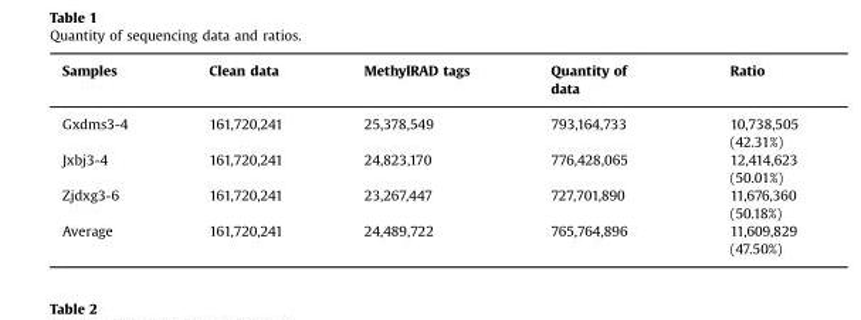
<table><thead><tr><td>Samples</td><td>Clean data</td><td>MethylRAD tags</td><td>Quantity of data</td><td>Ratio</td></tr></thead><tbody><tr><td>Gxdms3-4</td><td>161,720,241</td><td>25,378,549</td><td>793,164,733</td><td>10,738,505 (42.31%)</td></tr><tr><td>Jxbj3-4</td><td>161,720,241</td><td>24,823,170</td><td>776,428,065</td><td>12,414,623 (50.01%)</td></tr><tr><td>Zjdxg3-6</td><td>161,720,241</td><td>23,267,447</td><td>727,701,890</td><td>11,676,360 (50.18%)</td></tr><tr><td>Average</td><td>161,720,241</td><td>24,489,722</td><td>765,764,896</td><td>11,609,829 (47.50%)</td></tr></tbody></table>